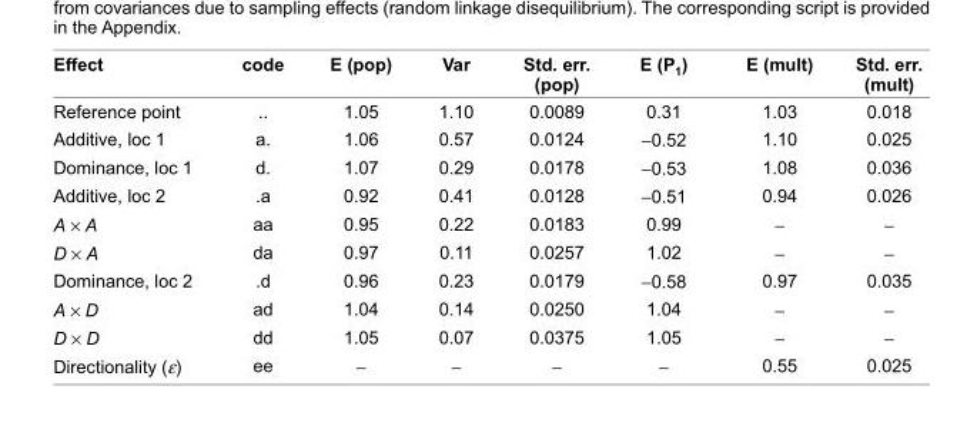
<table><thead><tr><td>Effect</td><td>code</td><td>E (pop)</td><td>Var</td><td>Std. err. (pop)</td><td>E (P<sub>1</sub>)</td><td>E (mult)</td><td>Std. err. (mult)</td></tr></thead><tbody><tr><td>Reference point</td><td>..</td><td>1.05</td><td>1.10</td><td>0.0089</td><td>0.31</td><td>1.03</td><td>0.018</td></tr><tr><td>Additive, loc 1</td><td>a.</td><td>1.06</td><td>0.57</td><td>0.0124</td><td>−0.52</td><td>1.10</td><td>0.025</td></tr><tr><td>Dominance, loc 1</td><td>d.</td><td>1.07</td><td>0.29</td><td>0.0178</td><td>−0.53</td><td>1.08</td><td>0.036</td></tr><tr><td>Additive, loc 2</td><td>.a</td><td>0.92</td><td>0.41</td><td>0.0128</td><td>−0.51</td><td>0.94</td><td>0.026</td></tr><tr><td>A × A</td><td>aa</td><td>0.95</td><td>0.22</td><td>0.0183</td><td>0.99</td><td>−</td><td>−</td></tr><tr><td>D × A</td><td>da</td><td>0.97</td><td>0.11</td><td>0.0257</td><td>1.02</td><td>−</td><td>−</td></tr><tr><td>Dominance, loc 2</td><td>.d</td><td>0.96</td><td>0.23</td><td>0.0179</td><td>−0.58</td><td>0.97</td><td>0.035</td></tr><tr><td>A × D</td><td>ad</td><td>1.04</td><td>0.14</td><td>0.0250</td><td>1.04</td><td>−</td><td>−</td></tr><tr><td>D × D</td><td>dd</td><td>1.05</td><td>0.07</td><td>0.0375</td><td>1.05</td><td>−</td><td>−</td></tr><tr><td>Directionality (ε)</td><td>ee</td><td>−</td><td>−</td><td>−</td><td>−</td><td>0.55</td><td>0.025</td></tr></tbody></table>